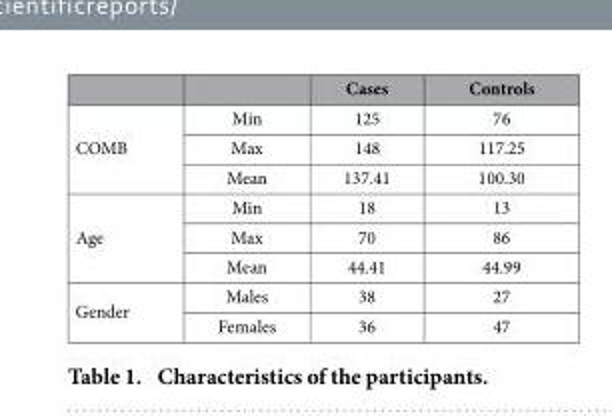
<table><thead><tr><td></td><td></td><td>Cases</td><td>Controls</td></tr></thead><tbody><tr><td rowspan="3">COMB</td><td>Min</td><td>125</td><td>76</td></tr><tr><td>Max</td><td>148</td><td>117.25</td></tr><tr><td>Mean</td><td>137.41</td><td>100.30</td></tr><tr><td rowspan="3">Age</td><td>Min</td><td>18</td><td>13</td></tr><tr><td>Max</td><td>70</td><td>86</td></tr><tr><td>Mean</td><td>44.41</td><td>44.99</td></tr><tr><td rowspan="2">Gender</td><td>Males</td><td>38</td><td>27</td></tr><tr><td>Females</td><td>36</td><td>47</td></tr></tbody></table>